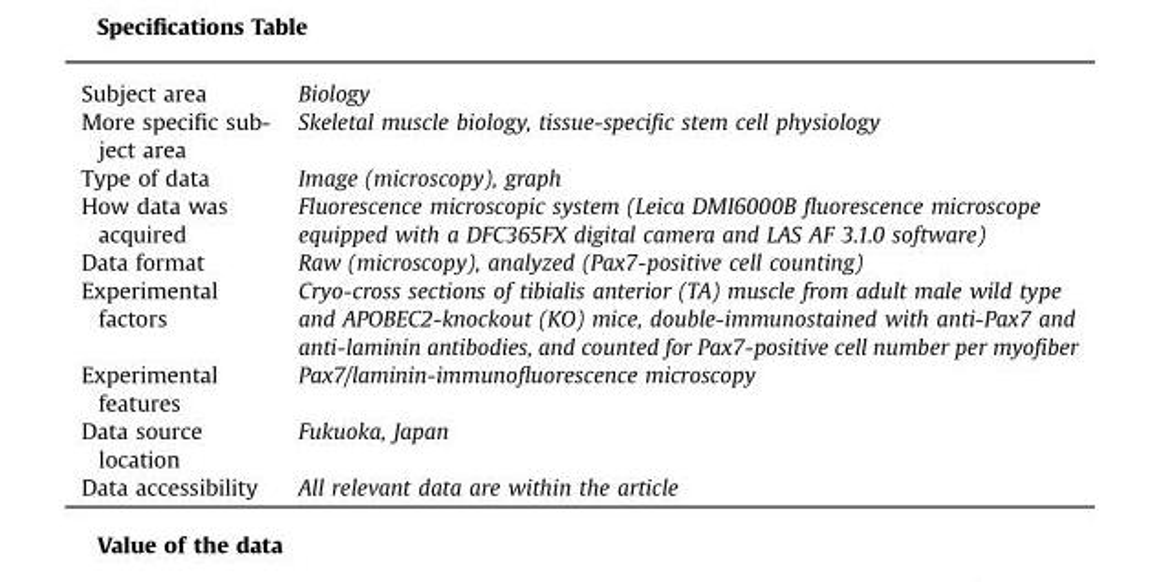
<table><tbody><tr><td>Subject area</td><td>Biology</td></tr><tr><td>More specific sub- ject area</td><td>Skeletal muscle biology, tissue-specific stem cell physiology</td></tr><tr><td>Type of data</td><td>Image (microscopy), graph</td></tr><tr><td>How data was acquired</td><td>Fluorescence microscopic system (Leica DMI6000B fluorescence microscope equipped with a DFC365FX digital camera and LAS AF 3.1.0 software)</td></tr><tr><td>Data format</td><td>Raw (microscopy), analyzed (Pax7-positive cell counting)</td></tr><tr><td>Experimental factors</td><td>Cryo-cross sections of tibialis anterior (TA) muscle from adult male wild type and APOBEC2-knockout (KO) mice, double-immunostained with anti-Pax7 and anti-laminin antibodies, and counted for Pax7-positive cell number per myofiber</td></tr><tr><td>Experimental features</td><td>Pax7/laminin-immunofluorescence microscopy</td></tr><tr><td>Data source location</td><td>Fukuoka, Japan</td></tr><tr><td>Data accessibility</td><td>All relevant data are within the article</td></tr></tbody></table>